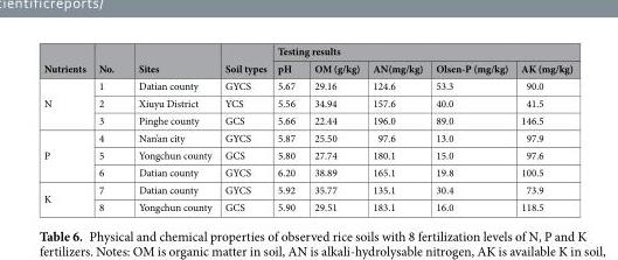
<table><thead><tr><td rowspan="2">Nutrients</td><td rowspan="2">No.</td><td rowspan="2">Sites</td><td rowspan="2">Soil types</td><td colspan="5">Testing results</td></tr><tr><td>pH</td><td>OM (g/kg)</td><td>AN(mg/kg)</td><td>Olsen-P (mg/kg)</td><td>AK (mg/kg)</td></tr></thead><tbody><tr><td rowspan="3">N</td><td>1</td><td>Datian county</td><td>GYCS</td><td>5.67</td><td>29.16</td><td>124.6</td><td>53.3</td><td>90.0</td></tr><tr><td>2</td><td>Xiuyu District</td><td>YCS</td><td>5.56</td><td>34.94</td><td>157.6</td><td>40.0</td><td>41.5</td></tr><tr><td>3</td><td>Pinghe county</td><td>GCS</td><td>5.66</td><td>22.44</td><td>196.0</td><td>89.0</td><td>146.5</td></tr><tr><td rowspan="3">P</td><td>4</td><td>Nan’an city</td><td>GYCS</td><td>5.87</td><td>25.50</td><td>97.6</td><td>13.0</td><td>97.9</td></tr><tr><td>5</td><td>Yongchun county</td><td>GCS</td><td>5.80</td><td>27.74</td><td>180.1</td><td>15.0</td><td>97.6</td></tr><tr><td>6</td><td>Datian county</td><td>GYCS</td><td>6.20</td><td>38.89</td><td>165.1</td><td>19.8</td><td>100.5</td></tr><tr><td rowspan="2">K</td><td>7</td><td>Datian county</td><td>GYCS</td><td>5.92</td><td>35.77</td><td>135.1</td><td>30.4</td><td>73.9</td></tr><tr><td>8</td><td>Yongchun county</td><td>GCS</td><td>5.90</td><td>29.51</td><td>183.1</td><td>16.0</td><td>118.5</td></tr></tbody></table>